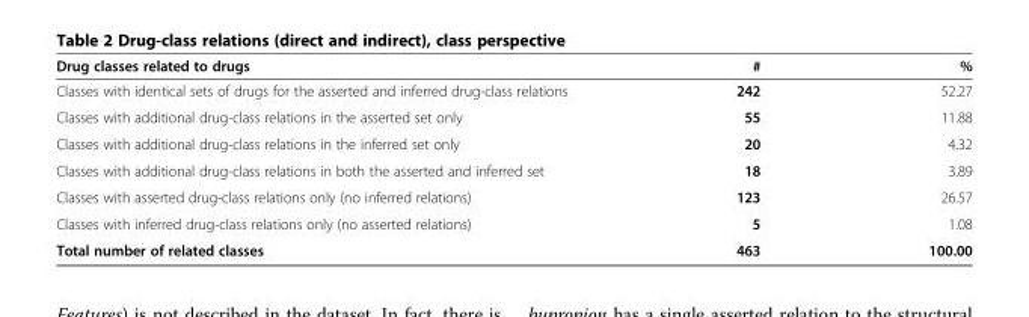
<table><thead><tr><td>Drug classes related to drugs</td><td>#</td><td>%</td></tr></thead><tbody><tr><td>Classes with identical sets of drugs for the asserted and inferred drug-class relations</td><td>242</td><td>52.27</td></tr><tr><td>Classes with additional drug-class relations in the asserted set only</td><td>55</td><td>11.88</td></tr><tr><td>Classes with additional drug-class relations in the inferred set only</td><td>20</td><td>4.32</td></tr><tr><td>Classes with additional drug-class relations in both the asserted and inferred set</td><td>18</td><td>3.89</td></tr><tr><td>Classes with asserted drug-class relations only (no inferred relations)</td><td>123</td><td>26.57</td></tr><tr><td>Classes with inferred drug-class relations only (no asserted relations)</td><td>5</td><td>1.08</td></tr><tr><td>Total number of related classes</td><td>463</td><td>100.00</td></tr></tbody></table>